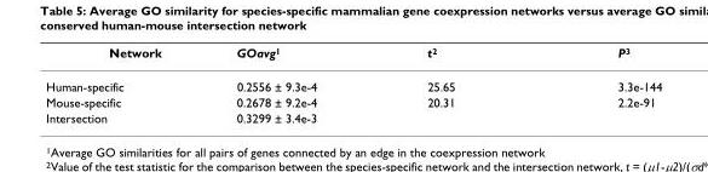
<table><thead><tr><td>Network</td><td>GOavg<sup>1</sup></td><td>t<sup>2</sup></td><td>P<sup>3</sup></td></tr></thead><tbody><tr><td>Human-specific</td><td>0.2556 ± 9.3e-4</td><td>25.65</td><td>3.3e-144</td></tr><tr><td>Mouse-specific</td><td>0.2678 ± 9.2e-4</td><td>20.31</td><td>2.2e-91</td></tr><tr><td>Intersection</td><td>0.3299 ± 3.4e-3</td><td></td><td></td></tr></tbody></table>